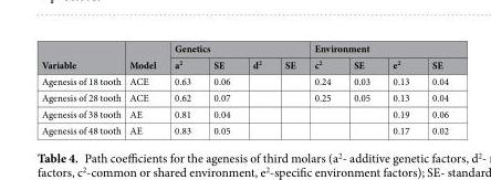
<table><thead><tr><td rowspan="2">Variable</td><td rowspan="2">Model</td><td colspan="4">Genetics</td><td colspan="4">Environment</td></tr><tr><td>a<sup>2</sup></td><td>SE</td><td>d<sup>2</sup></td><td>SE</td><td>c<sup>2</sup></td><td>SE</td><td>e<sup>2</sup></td><td>SE</td></tr></thead><tbody><tr><td>Agenesis of 18 tooth</td><td>ACE</td><td>0.63</td><td>0.06</td><td></td><td></td><td>0.24</td><td>0.03</td><td>0.13</td><td>0.04</td></tr><tr><td>Agenesis of 28 tooth</td><td>ACE</td><td>0.62</td><td>0.07</td><td></td><td></td><td>0.25</td><td>0.05</td><td>0.13</td><td>0.04</td></tr><tr><td>Agenesis of 38 tooth</td><td>AE</td><td>0.81</td><td>0.04</td><td></td><td></td><td></td><td></td><td>0.19</td><td>0.06</td></tr><tr><td>Agenesis of 48 tooth</td><td>AE</td><td>0.83</td><td>0.05</td><td></td><td></td><td></td><td></td><td>0.17</td><td>0.02</td></tr></tbody></table>